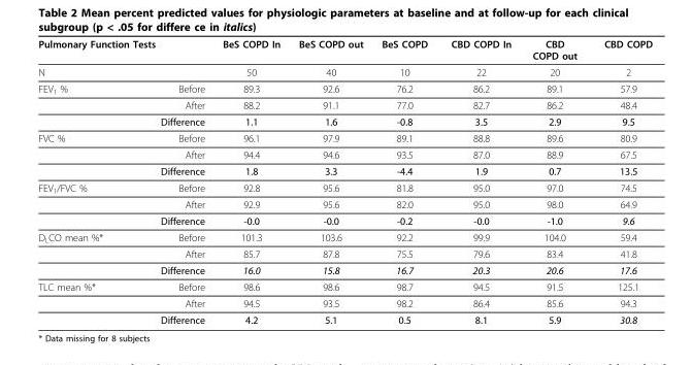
<table><thead><tr><td colspan="2">Pulmonary Function Tests</td><td rowspan="2">BeS COPD In 50</td><td rowspan="2">BeS COPD out 40</td><td rowspan="2">BeS COPD 10</td><td rowspan="2">CBD COPD In 22</td><td rowspan="2">CBD COPD out 20</td><td rowspan="2">CBD COPD 2</td></tr><tr><td>N</td><td></td></tr></thead><tbody><tr><td rowspan="3">FEV<sub>1</sub> %</td><td>Before</td><td>89.3</td><td>92.6</td><td>76.2</td><td>86.2</td><td>89.1</td><td>57.9</td></tr><tr><td>After</td><td>88.2</td><td>91.1</td><td>77.0</td><td>82.7</td><td>86.2</td><td>48.4</td></tr><tr><td>Difference</td><td>1.1</td><td>1.6</td><td>-0.8</td><td>3.5</td><td>2.9</td><td>9.5</td></tr><tr><td rowspan="3">FVC %</td><td>Before</td><td>96.1</td><td>97.9</td><td>89.1</td><td>88.8</td><td>89.6</td><td>80.9</td></tr><tr><td>After</td><td>94.4</td><td>94.6</td><td>93.5</td><td>87.0</td><td>88.9</td><td>67.5</td></tr><tr><td>Difference</td><td>1.8</td><td>3.3</td><td>-4.4</td><td>1.9</td><td>0.7</td><td>13.5</td></tr><tr><td rowspan="3">FEV<sub>1</sub>/FVC %</td><td>Before</td><td>92.8</td><td>95.6</td><td>81.8</td><td>95.0</td><td>97.0</td><td>74.5</td></tr><tr><td>After</td><td>92.9</td><td>95.6</td><td>82.0</td><td>95.0</td><td>98.0</td><td>64.9</td></tr><tr><td>Difference</td><td>-0.0</td><td>-0.0</td><td>-0.2</td><td>-0.0</td><td>-1.0</td><td>9.6</td></tr><tr><td rowspan="3">D<sub>L</sub>CO mean %*</td><td>Before</td><td>101.3</td><td>103.6</td><td>92.2</td><td>99.9</td><td>104.0</td><td>59.4</td></tr><tr><td>After</td><td>85.7</td><td>87.8</td><td>75.5</td><td>79.6</td><td>83.4</td><td>41.8</td></tr><tr><td>Difference</td><td>16.0</td><td>15.8</td><td>16.7</td><td>20.3</td><td>20.6</td><td>17.6</td></tr><tr><td rowspan="3">TLC mean %*</td><td>Before</td><td>98.6</td><td>98.6</td><td>98.7</td><td>94.5</td><td>91.5</td><td>125.1</td></tr><tr><td>After</td><td>94.5</td><td>93.5</td><td>98.2</td><td>86.4</td><td>85.6</td><td>94.3</td></tr><tr><td>Difference</td><td>4.2</td><td>5.1</td><td>0.5</td><td>8.1</td><td>5.9</td><td>30.8</td></tr></tbody></table>